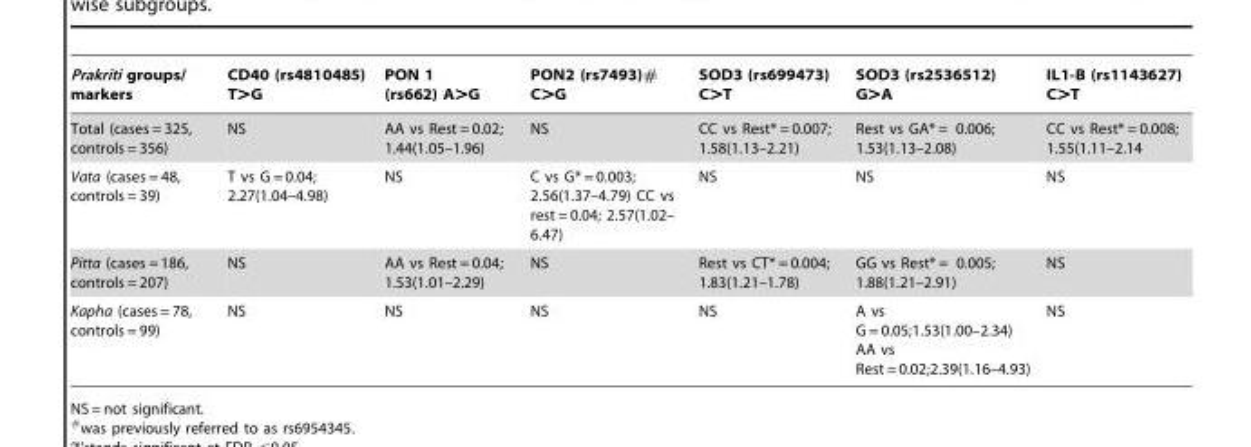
<table><thead><tr><td>Prakriti groups/ markers</td><td>CD40 (rs4810485) T&gt;G</td><td>PON 1 (rs662) A&gt;G</td><td>PON2 (rs7493)# C&gt;G</td><td>SOD3 (rs699473) C&gt;T</td><td>SOD3 (rs2536512) G&gt;A</td><td>IL1-B (rs1143627) C&gt;T</td></tr></thead><tbody><tr><td>Total (cases = 325, controls = 356)</td><td>NS</td><td>AA vs Rest = 0.02; 1.44(1.05–1.96)</td><td>NS</td><td>CC vs Rest* = 0.007; 1.58(1.13–2.21)</td><td>Rest vs GA* = 0.006; 1.53(1.13–2.08)</td><td>CC vs Rest* = 0.008; 1.55(1.11–2.14</td></tr><tr><td>Vata (cases = 48, controls = 39)</td><td>T vs G = 0.04; 2.27(1.04–4.98)</td><td>NS</td><td>C vs G* = 0.003; 2.56(1.37–4.79) CC vs rest = 0.04; 2.57(1.02– 6.47)</td><td>NS</td><td>NS</td><td>NS</td></tr><tr><td>Pitta (cases = 186, controls = 207)</td><td>NS</td><td>AA vs Rest = 0.04; 1.53(1.01–2.29)</td><td>NS</td><td>Rest vs CT* = 0.004; 1.83(1.21–1.78)</td><td>GG vs Rest* = 0.005; 1.88(1.21–2.91)</td><td>NS</td></tr><tr><td>Kapha (cases = 78, controls = 99)</td><td>NS</td><td>NS</td><td>NS</td><td>NS</td><td>A vs G = 0.05;1.53(1.00–2.34) AA vs Rest = 0.02;2.39(1.16–4.93)</td><td>NS</td></tr></tbody></table>